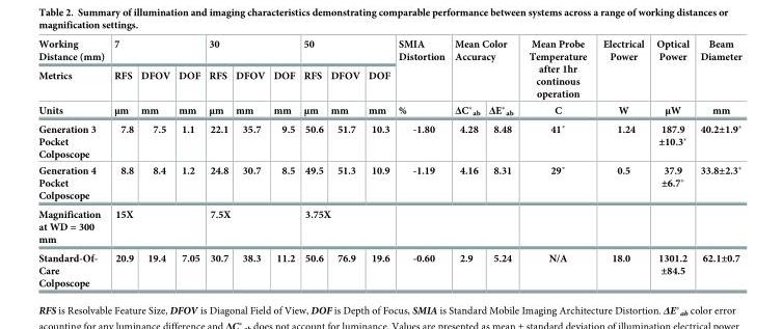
<table><thead><tr><td rowspan="3">Working Distance (mm) Metrics Units</td><td colspan="3">7</td><td colspan="3">30</td><td colspan="3">50</td><td rowspan="3">SMIA Distortion %</td><td rowspan="2" colspan="2">Mean Color Accuracy</td><td rowspan="3">Mean Probe Temperature after 1hr continous operation C</td><td rowspan="3">Electrical Power W</td><td rowspan="3">Optical Power μW</td><td rowspan="3">Beam Diameter mm</td></tr><tr><td rowspan="2">RFS μm</td><td rowspan="2">DFOV mm</td><td rowspan="2">DOF mm</td><td rowspan="2">RFS μm</td><td rowspan="2">DFOV mm</td><td rowspan="2">DOF mm</td><td rowspan="2">RFS μm</td><td rowspan="2">DFOV mm</td><td rowspan="2">DOF mm</td></tr><tr><td>ΔC*<sub>ab</sub></td><td>ΔE*<sub>ab</sub></td></tr></thead><tbody><tr><td>Generation 3 Pocket Colposcope</td><td>7.8</td><td>7.5</td><td>1.1</td><td>22.1</td><td>35.7</td><td>9.5</td><td>50.6</td><td>51.7</td><td>10.3</td><td>-1.80</td><td>4.28</td><td>8.48</td><td>41˚</td><td>1.24</td><td>187.9 ±10.3*</td><td>40.2±1.9*</td></tr><tr><td>Generation 4 Pocket Colposcope</td><td>8.8</td><td>8.4</td><td>1.2</td><td>24.8</td><td>30.7</td><td>8.5</td><td>49.5</td><td>51.3</td><td>10.9</td><td>-1.19</td><td>4.16</td><td>8.31</td><td>29˚</td><td>0.5</td><td>37.9 ±6.7*</td><td>33.8±2.3*</td></tr><tr><td>Magnification at WD = 300 mm</td><td colspan="3">15X</td><td colspan="3">7.5X</td><td colspan="3">3.75X</td><td colspan="3"></td><td></td><td></td><td></td><td></td></tr><tr><td>Standard-Of- Care Colposcope</td><td>20.9</td><td>19.4</td><td>7.05</td><td>30.7</td><td>38.3</td><td>11.2</td><td>50.6</td><td>76.9</td><td>19.6</td><td>-0.60</td><td>2.9</td><td>5.24</td><td>N/A</td><td>18.0</td><td>1301.2 ±84.5</td><td>62.1±0.7</td></tr></tbody></table>